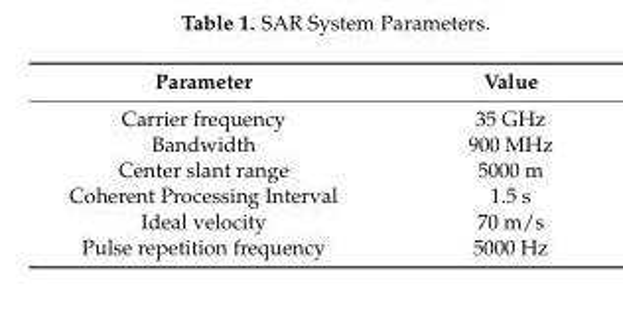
<table><thead><tr><td>Parameter</td><td>Value</td></tr></thead><tbody><tr><td>Carrier frequency</td><td>35 GHz</td></tr><tr><td>Bandwidth</td><td>900 MHz</td></tr><tr><td>Center slant range</td><td>5000 m</td></tr><tr><td>Coherent Processing Interval</td><td>1.5 s</td></tr><tr><td>Ideal velocity</td><td>70 m/s</td></tr><tr><td>Pulse repetition frequency</td><td>5000 Hz</td></tr></tbody></table>